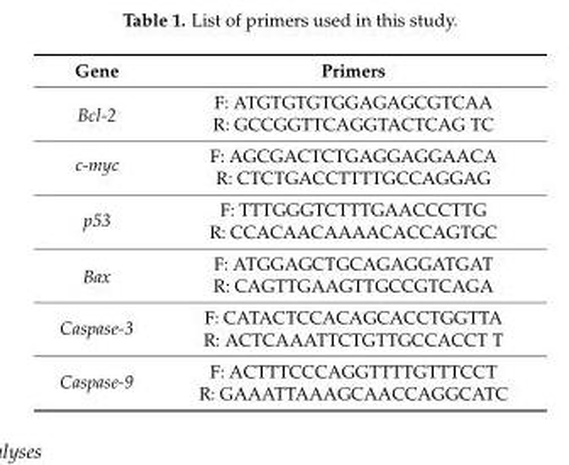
<table><thead><tr><td>Gene</td><td>Primers</td></tr></thead><tbody><tr><td rowspan="2">Bcl-2</td><td>F: ATGTGTGTGGAGAGCGTCAA</td></tr><tr><td>R: GCCGGTTCAGGTACTCAG TC</td></tr><tr><td rowspan="2">c-myc</td><td>F: AGCGACTCTGAGGAGGAACA</td></tr><tr><td>R: CTCTGACCTTTTGCCAGGAG</td></tr><tr><td rowspan="2">p53</td><td>F: TTTGGGTCTTTGAACCCTTG</td></tr><tr><td>R: CCACAACAAAACACCAGTGC</td></tr><tr><td rowspan="2">Bax</td><td>F: ATGGAGCTGCAGAGGATGAT</td></tr><tr><td>R: CAGTTGAAGTTGCCGTCAGA</td></tr><tr><td rowspan="2">Caspase-3</td><td>F: CATACTCCACAGCACCTGGTTA</td></tr><tr><td>R: ACTCAAATTCTGTTGCCACCT T</td></tr><tr><td rowspan="2">Caspase-9</td><td>F: ACTTTCCCAGGTTTTGTTTCCT</td></tr><tr><td>R: GAAATTAAAGCAACCAGGCATC</td></tr></tbody></table>